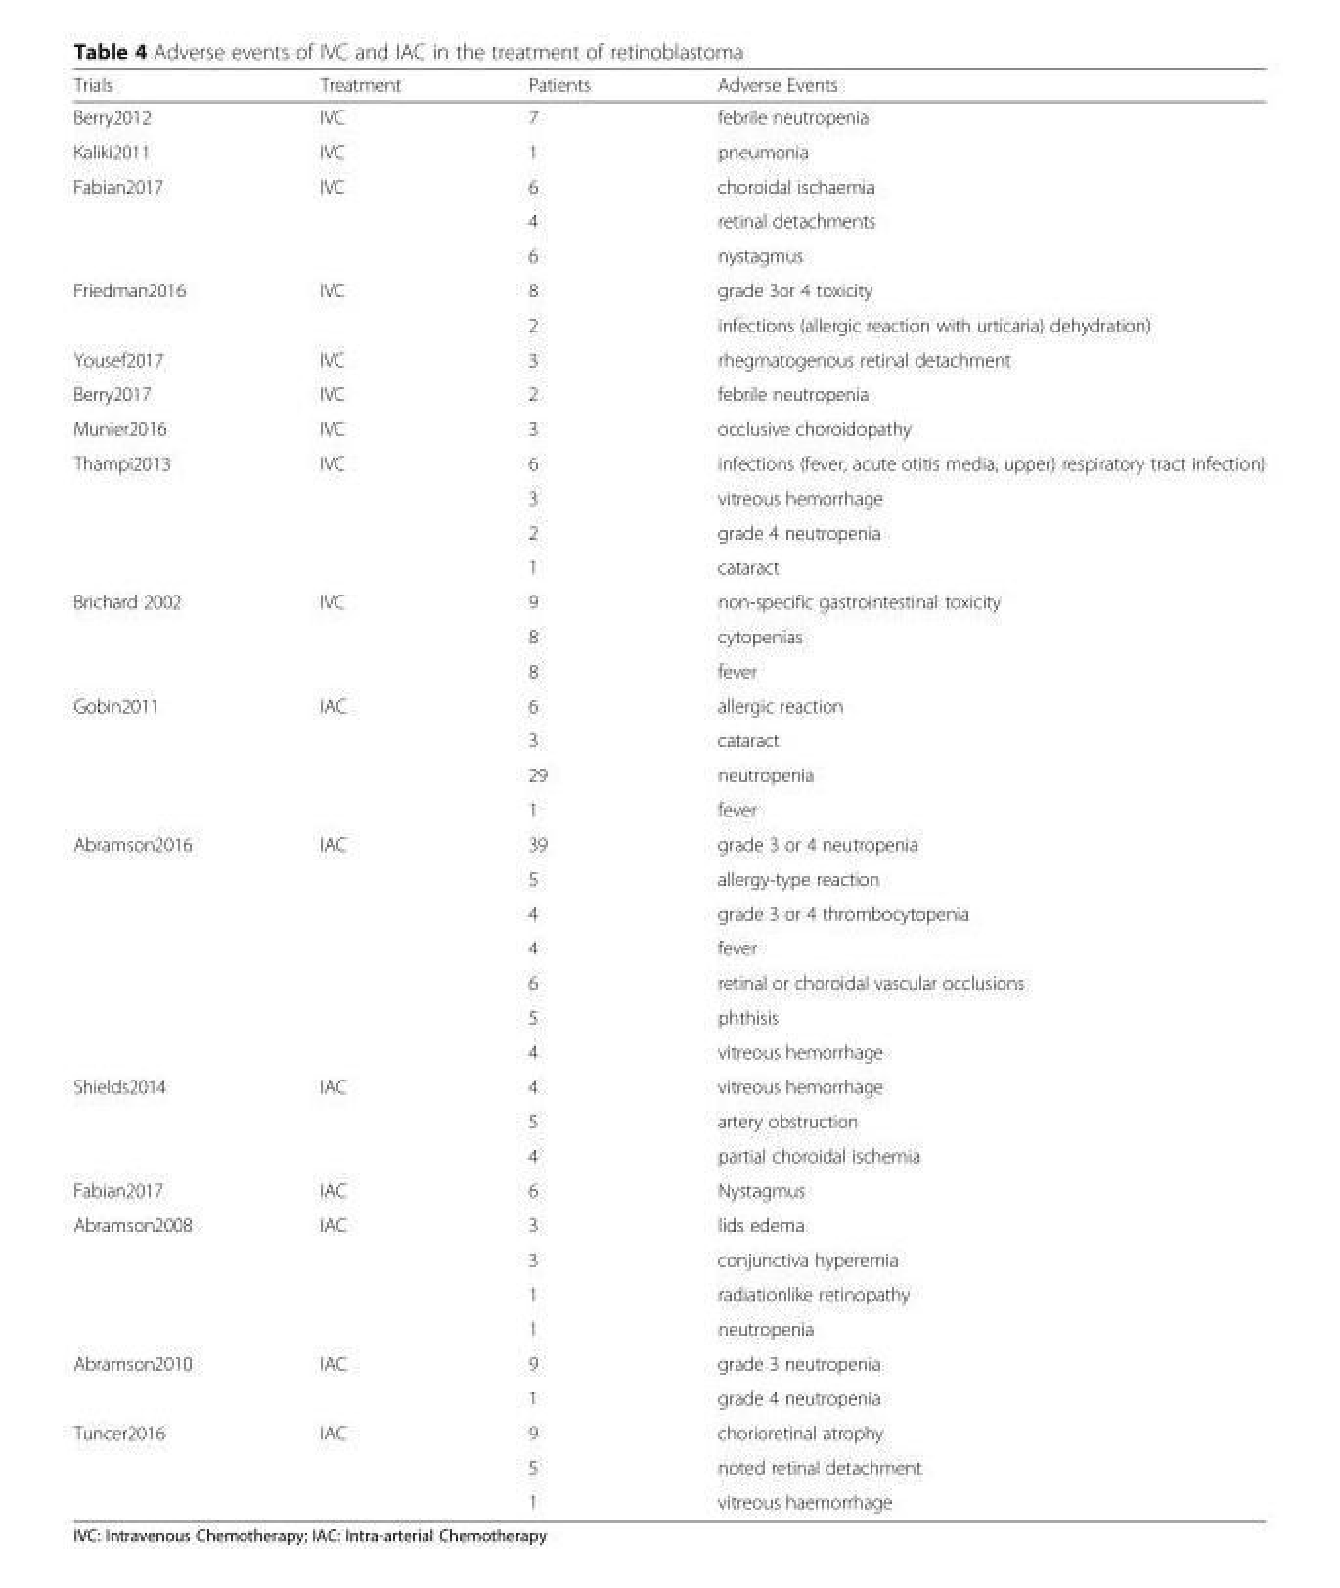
<table><thead><tr><td>Trials</td><td>Treatment</td><td>Patients</td><td>Adverse Events</td></tr></thead><tbody><tr><td>Berry2012</td><td>IVC</td><td>7</td><td>febrile neutropenia</td></tr><tr><td>Kaliki2011</td><td>IVC</td><td>1</td><td>pneumonia</td></tr><tr><td rowspan="3">Fabian2017</td><td>IVC</td><td>6</td><td>choroidal ischaemia</td></tr><tr><td></td><td>4</td><td>retinal detachments</td></tr><tr><td></td><td>6</td><td>nystagmus</td></tr><tr><td rowspan="2">Friedman2016</td><td>IVC</td><td>8</td><td>grade 3or 4 toxicity</td></tr><tr><td></td><td>2</td><td>infections (allergic reaction with urticaria) dehydration)</td></tr><tr><td>Yousef2017</td><td>IVC</td><td>3</td><td>rhegmatogenous retinal detachment</td></tr><tr><td>Berry2017</td><td>IVC</td><td>2</td><td>febrile neutropenia</td></tr><tr><td>Munier2016</td><td>IVC</td><td>3</td><td>occlusive choroidopathy</td></tr><tr><td rowspan="4">Thampi2013</td><td>IVC</td><td>6</td><td>infections (fever, acute otitis media, upper) respiratory tract infection)</td></tr><tr><td></td><td>3</td><td>vitreous hemorrhage</td></tr><tr><td></td><td>2</td><td>grade 4 neutropenia</td></tr><tr><td></td><td>1</td><td>cataract</td></tr><tr><td rowspan="3">Brichard 2002</td><td>IVC</td><td>9</td><td>non-specific gastrointestinal toxicity</td></tr><tr><td></td><td>8</td><td>cytopenias</td></tr><tr><td></td><td>8</td><td>fever</td></tr><tr><td rowspan="4">Gobin2011</td><td>IAC</td><td>6</td><td>allergic reaction</td></tr><tr><td></td><td>3</td><td>cataract</td></tr><tr><td></td><td>29</td><td>neutropenia</td></tr><tr><td></td><td>1</td><td>fever</td></tr><tr><td rowspan="7">Abramson2016</td><td>IAC</td><td>39</td><td>grade 3 or 4 neutropenia</td></tr><tr><td></td><td>5</td><td>allergy-type reaction</td></tr><tr><td></td><td>4</td><td>grade 3 or 4 thrombocytopenia</td></tr><tr><td></td><td>4</td><td>fever</td></tr><tr><td></td><td>6</td><td>retinal or choroidal vascular occlusions</td></tr><tr><td></td><td>5</td><td>phthisis</td></tr><tr><td></td><td>4</td><td>vitreous hemorrhage</td></tr><tr><td rowspan="3">Shields2014</td><td>IAC</td><td>4</td><td>vitreous hemorrhage</td></tr><tr><td></td><td>5</td><td>artery obstruction</td></tr><tr><td></td><td>4</td><td>partial choroidal ischemia</td></tr><tr><td>Fabian2017</td><td>IAC</td><td>6</td><td>Nystagmus</td></tr><tr><td rowspan="4">Abramson2008</td><td>IAC</td><td>3</td><td>lids edema</td></tr><tr><td></td><td>3</td><td>conjunctiva hyperemia</td></tr><tr><td></td><td>1</td><td>radiationlike retinopathy</td></tr><tr><td></td><td>1</td><td>neutropenia</td></tr><tr><td rowspan="2">Abramson2010</td><td>IAC</td><td>9</td><td>grade 3 neutropenia</td></tr><tr><td></td><td>1</td><td>grade 4 neutropenia</td></tr><tr><td rowspan="3">Tuncer2016</td><td>IAC</td><td>9</td><td>chorioretinal atrophy</td></tr><tr><td></td><td>5</td><td>noted retinal detachment</td></tr><tr><td></td><td>1</td><td>vitreous haemorrhage</td></tr></tbody></table>